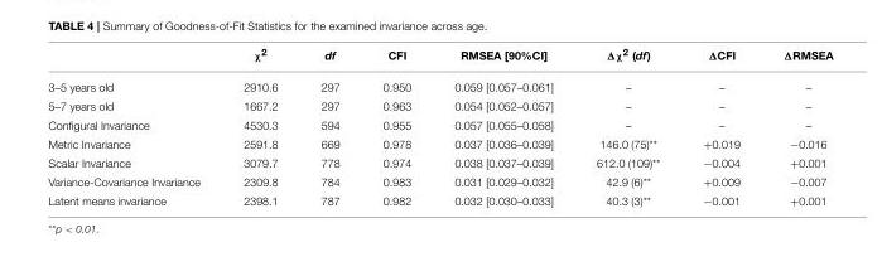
<table><thead><tr><td></td><td>χ<sup>2</sup></td><td>df</td><td>CFI</td><td>RMSEA [90%CI]</td><td>Δχ<sup>2</sup> (df)</td><td>ΔCFI</td><td>ΔRMSEA</td></tr></thead><tbody><tr><td>3–5 years old</td><td>2910.6</td><td>297</td><td>0.950</td><td>0.059 [0.057–0.061]</td><td>–</td><td>–</td><td>–</td></tr><tr><td>5–7 years old</td><td>1667.2</td><td>297</td><td>0.963</td><td>0.054 [0.052–0.057]</td><td>–</td><td>–</td><td>–</td></tr><tr><td>Configural Invariance</td><td>4530.3</td><td>594</td><td>0.955</td><td>0.057 [0.055–0.058]</td><td>–</td><td>–</td><td>–</td></tr><tr><td>Metric Invariance</td><td>2591.8</td><td>669</td><td>0.978</td><td>0.037 [0.036–0.039]</td><td>146.0 (75)**</td><td>+0.019</td><td>−0.016</td></tr><tr><td>Scalar Invariance</td><td>3079.7</td><td>778</td><td>0.974</td><td>0.038 [0.037–0.039]</td><td>612.0 (109)**</td><td>−0.004</td><td>+0.001</td></tr><tr><td>Variance-Covariance Invariance</td><td>2309.8</td><td>784</td><td>0.983</td><td>0.031 [0.029–0.032]</td><td>42.9 (6)**</td><td>+0.009</td><td>−0.007</td></tr><tr><td>Latent means invariance</td><td>2398.1</td><td>787</td><td>0.982</td><td>0.032 [0.030–0.033]</td><td>40.3 (3)**</td><td>−0.001</td><td>+0.001</td></tr></tbody></table>